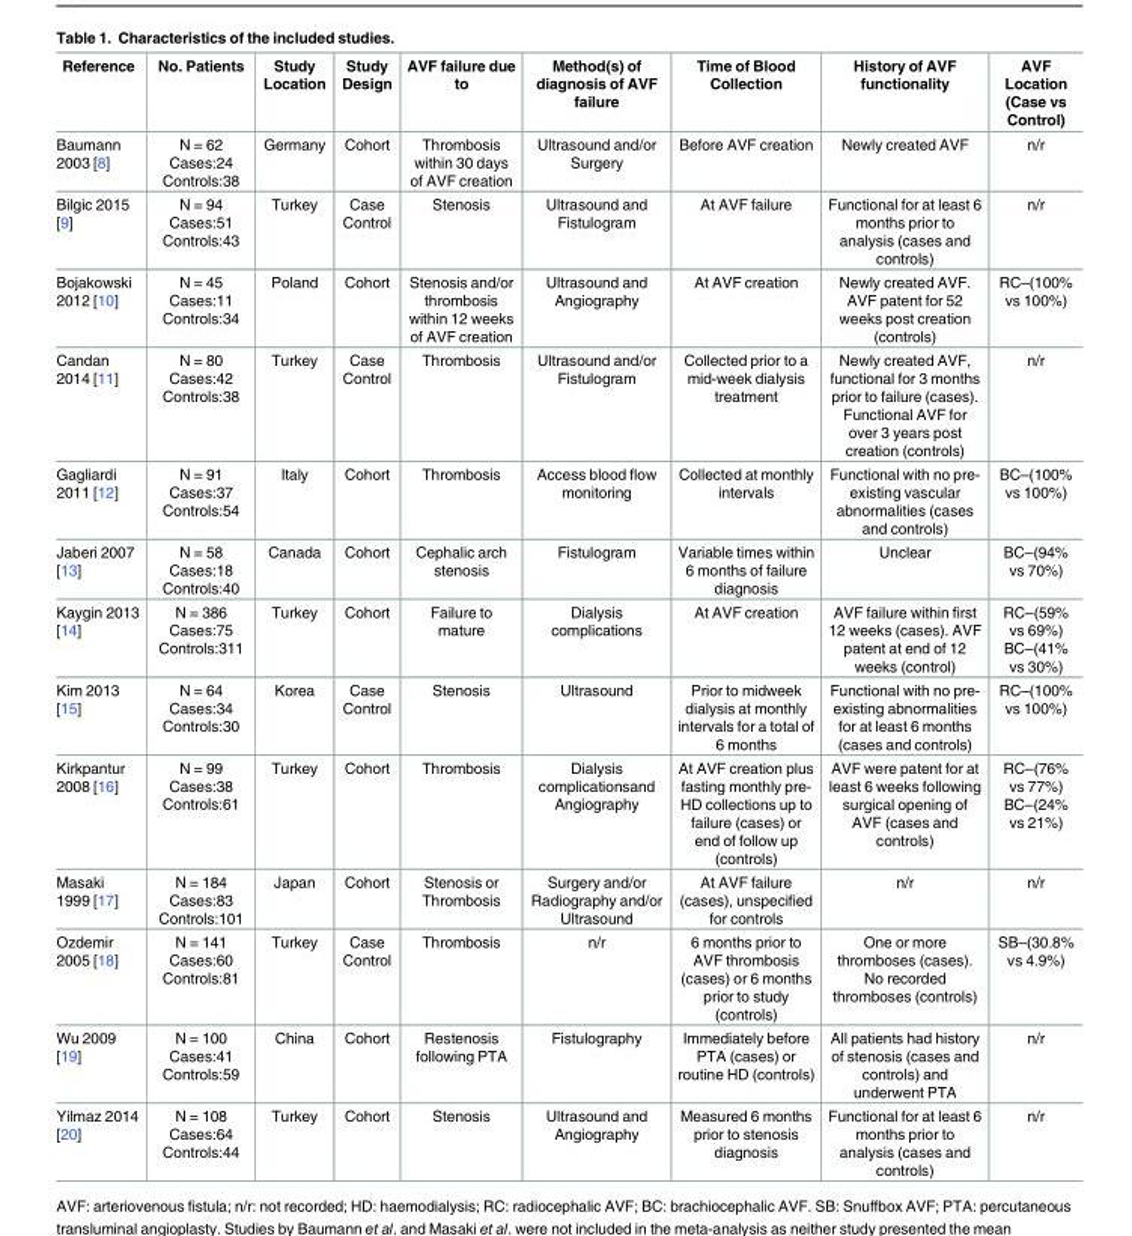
<table><thead><tr><td>Reference</td><td>No. Patients</td><td>Study Location</td><td>Study Design</td><td>AVF failure due to</td><td>Method(s) of diagnosis of AVF failure</td><td>Time of Blood Collection</td><td>History of AVF functionality</td><td>AVF Location (Case vs Control)</td></tr></thead><tbody><tr><td>Baumann 2003 [8]</td><td>N = 62 Cases:24 Controls:38</td><td>Germany</td><td>Cohort</td><td>Thrombosis within 30 days of AVF creation</td><td>Ultrasound and/or Surgery</td><td>Before AVF creation</td><td>Newly created AVF</td><td>n/r</td></tr><tr><td>Bilgic 2015 [9]</td><td>N = 94 Cases:51 Controls:43</td><td>Turkey</td><td>Case Control</td><td>Stenosis</td><td>Ultrasound and Fistulogram</td><td>At AVF failure</td><td>Functional for at least 6 months prior to analysis (cases and controls)</td><td>n/r</td></tr><tr><td>Bojakowski 2012 [10]</td><td>N = 45 Cases:11 Controls:34</td><td>Poland</td><td>Cohort</td><td>Stenosis and/or thrombosis within 12 weeks of AVF creation</td><td>Ultrasound and Angiography</td><td>At AVF creation</td><td>Newly created AVF. AVF patent for 52 weeks post creation (controls)</td><td>RC–(100% vs 100%)</td></tr><tr><td>Candan 2014 [11]</td><td>N = 80 Cases:42 Controls:38</td><td>Turkey</td><td>Case Control</td><td>Thrombosis</td><td>Ultrasound and/or Fistulogram</td><td>Collected prior to a mid-week dialysis treatment</td><td>Newly created AVF, functional for 3 months prior to failure (cases). Functional AVF for over 3 years post creation (controls)</td><td>n/r</td></tr><tr><td>Gagliardi 2011 [12]</td><td>N = 91 Cases:37 Controls:54</td><td>Italy</td><td>Cohort</td><td>Thrombosis</td><td>Access blood flow monitoring</td><td>Collected at monthly intervals</td><td>Functional with no pre- existing vascular abnormalities (cases and controls)</td><td>BC–(100% vs 100%)</td></tr><tr><td>Jaberi 2007 [13]</td><td>N = 58 Cases:18 Controls:40</td><td>Canada</td><td>Cohort</td><td>Cephalic arch stenosis</td><td>Fistulogram</td><td>Variable times within 6 months of failure diagnosis</td><td>Unclear</td><td>BC–(94% vs 70%)</td></tr><tr><td>Kaygin 2013 [14]</td><td>N = 386 Cases:75 Controls:311</td><td>Turkey</td><td>Cohort</td><td>Failure to mature</td><td>Dialysis complications</td><td>At AVF creation</td><td>AVF failure within first 12 weeks (cases). AVF patent at end of 12 weeks (control)</td><td>RC–(59% vs 69%) BC–(41% vs 30%)</td></tr><tr><td>Kim 2013 [15]</td><td>N = 64 Cases:34 Controls:30</td><td>Korea</td><td>Case Control</td><td>Stenosis</td><td>Ultrasound</td><td>Prior to midweek dialysis at monthly intervals for a total of 6 months</td><td>Functional with no pre- existing abnormalities for at least 6 months (cases and controls)</td><td>RC–(100% vs 100%)</td></tr><tr><td>Kirkpantur 2008 [16]</td><td>N = 99 Cases:38 Controls:61</td><td>Turkey</td><td>Cohort</td><td>Thrombosis</td><td>Dialysis complicationsand Angiography</td><td>At AVF creation plus fasting monthly pre- HD collections up to failure (cases) or end of follow up (controls)</td><td>AVF were patent for at least 6 weeks following surgical opening of AVF (cases and controls)</td><td>RC–(76% vs 77%) BC–(24% vs 21%)</td></tr><tr><td>Masaki 1999 [17]</td><td>N = 184 Cases:83 Controls:101</td><td>Japan</td><td>Cohort</td><td>Stenosis or Thrombosis</td><td>Surgery and/or Radiography and/or Ultrasound</td><td>At AVF failure (cases), unspecified for controls</td><td>n/r</td><td>n/r</td></tr><tr><td>Ozdemir 2005 [18]</td><td>N = 141 Cases:60 Controls:81</td><td>Turkey</td><td>Case Control</td><td>Thrombosis</td><td>n/r</td><td>6 months prior to AVF thrombosis (cases) or 6 months prior to study (controls)</td><td>One or more thromboses (cases). No recorded thromboses (controls)</td><td>SB–(30.8% vs 4.9%)</td></tr><tr><td>Wu 2009 [19]</td><td>N = 100 Cases:41 Controls:59</td><td>China</td><td>Cohort</td><td>Restenosis following PTA</td><td>Fistulography</td><td>Immediately before PTA (cases) or routine HD (controls)</td><td>All patients had history of stenosis (cases and controls) and underwent PTA</td><td>n/r</td></tr><tr><td>Yilmaz 2014 [20]</td><td>N = 108 Cases:64 Controls:44</td><td>Turkey</td><td>Cohort</td><td>Stenosis</td><td>Ultrasound and Angiography</td><td>Measured 6 months prior to stenosis diagnosis</td><td>Functional for at least 6 months prior to analysis (cases and controls)</td><td>n/r</td></tr></tbody></table>